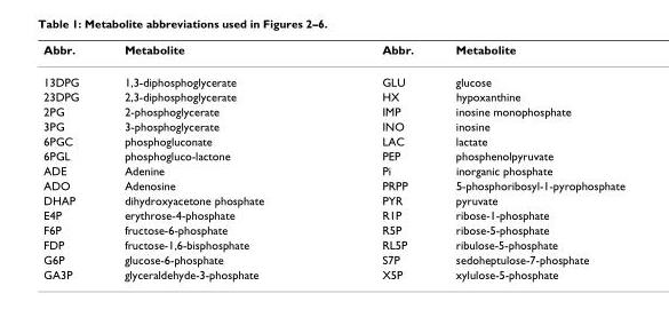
<table><thead><tr><td>Abbr.</td><td>Metabolite</td><td>Abbr.</td><td>Metabolite</td></tr></thead><tbody><tr><td>13DPG</td><td>1,3-diphosphoglycerate</td><td>GLU</td><td>glucose</td></tr><tr><td>23DPG</td><td>2,3-diphosphoglycerate</td><td>HX</td><td>hypoxanthine</td></tr><tr><td>2PG</td><td>2-phosphoglycerate</td><td>IMP</td><td>inosine monophosphate</td></tr><tr><td>3PG</td><td>3-phosphoglycerate</td><td>INO</td><td>inosine</td></tr><tr><td>6PGC</td><td>phosphogluconate</td><td>LAC</td><td>lactate</td></tr><tr><td>6PGL</td><td>phosphogluco-lactone</td><td>PEP</td><td>phosphenolpyruvate</td></tr><tr><td>ADE</td><td>Adenine</td><td>Pi</td><td>inorganic phosphate</td></tr><tr><td>ADO</td><td>Adenosine</td><td>PRPP</td><td>5-phosphoribosyl-1-pyrophosphate</td></tr><tr><td>DHAP</td><td>dihydroxyacetone phosphate</td><td>PYR</td><td>pyruvate</td></tr><tr><td>E4P</td><td>erythrose-4-phosphate</td><td>R1P</td><td>ribose-1-phosphate</td></tr><tr><td>F6P</td><td>fructose-6-phosphate</td><td>R5P</td><td>ribose-5-phosphate</td></tr><tr><td>FDP</td><td>fructose-1,6-bisphosphate</td><td>RL5P</td><td>ribulose-5-phosphate</td></tr><tr><td>G6P</td><td>glucose-6-phosphate</td><td>S7P</td><td>sedoheptulose-7-phosphate</td></tr><tr><td>GA3P</td><td>glyceraldehyde-3-phosphate</td><td>X5P</td><td>xylulose-5-phosphate</td></tr></tbody></table>